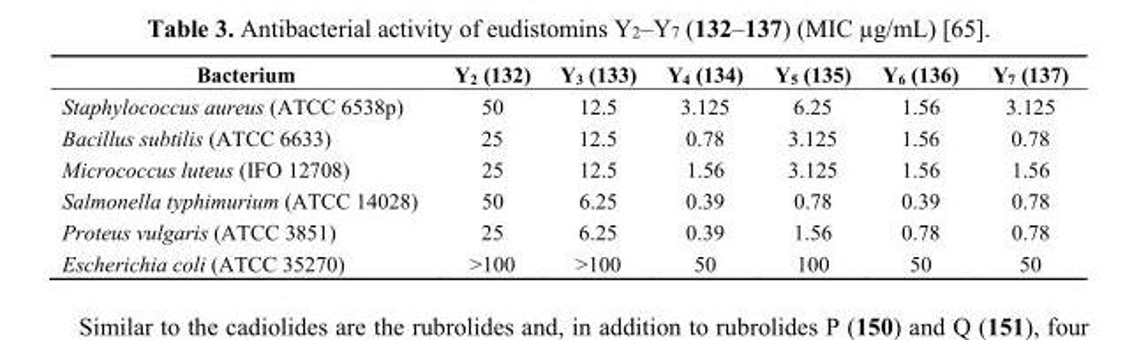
<table><thead><tr><td>Bacterium</td><td>Y<sub>2</sub> (132)</td><td>Y<sub>3</sub> (133)</td><td>Y<sub>4</sub> (134)</td><td>Y<sub>5</sub> (135)</td><td>Y<sub>6</sub> (136)</td><td>Y<sub>7</sub> (137)</td></tr></thead><tbody><tr><td>Staphylococcus aureus (ATCC 6538p)</td><td>50</td><td>12.5</td><td>3.125</td><td>6.25</td><td>1.56</td><td>3.125</td></tr><tr><td>Bacillus subtilis (ATCC 6633)</td><td>25</td><td>12.5</td><td>0.78</td><td>3.125</td><td>1.56</td><td>0.78</td></tr><tr><td>Micrococcus luteus (IFO 12708)</td><td>25</td><td>12.5</td><td>1.56</td><td>3.125</td><td>1.56</td><td>1.56</td></tr><tr><td>Salmonella typhimurium (ATCC 14028)</td><td>50</td><td>6.25</td><td>0.39</td><td>0.78</td><td>0.39</td><td>0.78</td></tr><tr><td>Proteus vulgaris (ATCC 3851)</td><td>25</td><td>6.25</td><td>0.39</td><td>1.56</td><td>0.78</td><td>0.78</td></tr><tr><td>Escherichia coli (ATCC 35270)</td><td>&gt;100</td><td>&gt;100</td><td>50</td><td>100</td><td>50</td><td>50</td></tr></tbody></table>